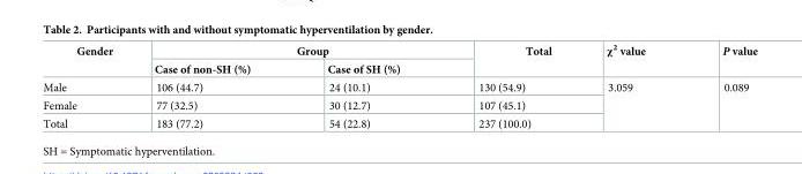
<table><thead><tr><td rowspan="2">Gender</td><td colspan="2">Group</td><td rowspan="2">Total</td><td rowspan="2">χ<sup>2</sup> value</td><td rowspan="2">P value</td></tr><tr><td>Case of non-SH (%)</td><td>Case of SH (%)</td></tr></thead><tbody><tr><td>Male</td><td>106 (44.7)</td><td>24 (10.1)</td><td>130 (54.9)</td><td rowspan="3">3.059</td><td rowspan="3">0.089</td></tr><tr><td>Female</td><td>77 (32.5)</td><td>30 (12.7)</td><td>107 (45.1)</td></tr><tr><td>Total</td><td>183 (77.2)</td><td>54 (22.8)</td><td>237 (100.0)</td></tr></tbody></table>